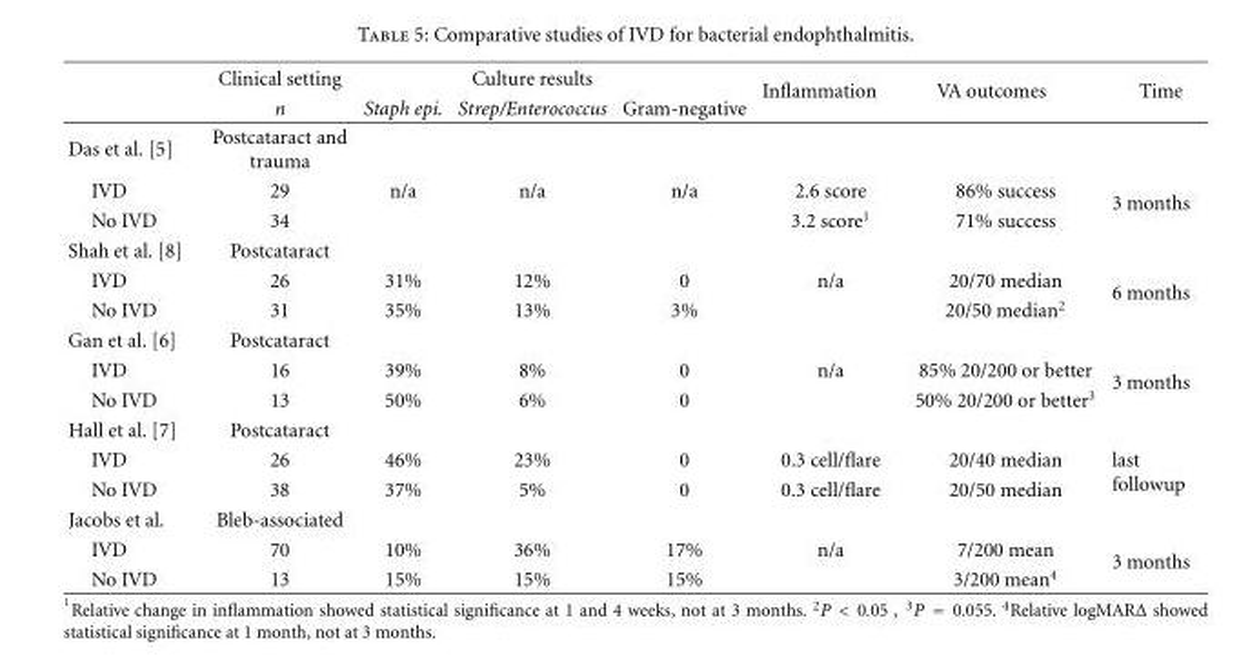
<table><thead><tr><td rowspan="2"></td><td rowspan="2">Clinical setting n</td><td rowspan="2">Staph epi.</td><td rowspan="2">Culture results Strep/Enterococcus</td><td rowspan="2">Gram-negative</td><td rowspan="2">Inflammation</td><td rowspan="2">VA outcomes</td><td rowspan="2">Time</td></tr><tr></tr></thead><tbody><tr><td>Das et al. [5]</td><td>Postcataract and trauma</td><td></td><td></td><td></td><td></td><td></td><td></td></tr><tr><td>IVD</td><td>29</td><td>n/a</td><td>n/a</td><td>n/a</td><td>2.6 score</td><td>86% success</td><td rowspan="2">3 months</td></tr><tr><td>No IVD</td><td>34</td><td></td><td></td><td></td><td>3.2 score<sup>1</sup></td><td>71% success</td></tr><tr><td>Shah et al. [8]</td><td>Postcataract</td><td></td><td></td><td></td><td></td><td></td><td></td></tr><tr><td>IVD</td><td>26</td><td>31%</td><td>12%</td><td>0</td><td>n/a</td><td>20/70 median</td><td rowspan="2">6 months</td></tr><tr><td>No IVD</td><td>31</td><td>35%</td><td>13%</td><td>3%</td><td></td><td>20/50 median<sup>2</sup></td></tr><tr><td>Gan et al. [6]</td><td>Postcataract</td><td></td><td></td><td></td><td></td><td></td><td></td></tr><tr><td>IVD</td><td>16</td><td>39%</td><td>8%</td><td>0</td><td>n/a</td><td>85% 20/200 or better</td><td rowspan="2">3 months</td></tr><tr><td>No IVD</td><td>13</td><td>50%</td><td>6%</td><td>0</td><td></td><td>50% 20/200 or better<sup>3</sup></td></tr><tr><td>Hall et al. [7]</td><td>Postcataract</td><td></td><td></td><td></td><td></td><td></td><td></td></tr><tr><td>IVD</td><td>26</td><td>46%</td><td>23%</td><td>0</td><td>0.3 cell/flare</td><td>20/40 median</td><td rowspan="2">last followup</td></tr><tr><td>No IVD</td><td>38</td><td>37%</td><td>5%</td><td>0</td><td>0.3 cell/flare</td><td>20/50 median</td></tr><tr><td>Jacobs et al.</td><td>Bleb-associated</td><td></td><td></td><td></td><td></td><td></td><td></td></tr><tr><td>IVD</td><td>70</td><td>10%</td><td>36%</td><td>17%</td><td>n/a</td><td>7/200 mean</td><td rowspan="2">3 months</td></tr><tr><td>No IVD</td><td>13</td><td>15%</td><td>15%</td><td>15%</td><td></td><td>3/200 mean<sup>4</sup></td></tr></tbody></table>